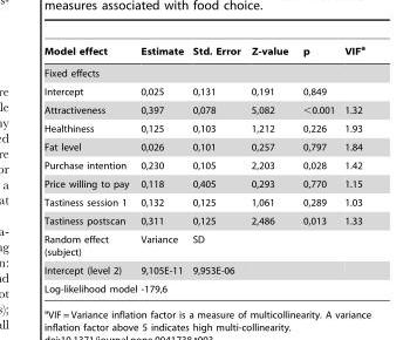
<table><thead><tr><td>Model effect</td><td>Estimate</td><td>Std. Error</td><td>Z-value</td><td>p</td><td>VIF<sup>a</sup></td></tr></thead><tbody><tr><td colspan="6">Fixed effects</td></tr><tr><td>Intercept</td><td>0,025</td><td>0,131</td><td>0,191</td><td>0,849</td><td></td></tr><tr><td>Attractiveness</td><td>0,397</td><td>0,078</td><td>5,082</td><td>&lt;0.001</td><td>1.32</td></tr><tr><td>Healthiness</td><td>0,125</td><td>0,103</td><td>1,212</td><td>0,226</td><td>1.93</td></tr><tr><td>Fat level</td><td>0,026</td><td>0,101</td><td>0,257</td><td>0,797</td><td>1.84</td></tr><tr><td>Purchase intention</td><td>0,230</td><td>0,105</td><td>2,203</td><td>0,028</td><td>1.42</td></tr><tr><td>Price willing to pay</td><td>0,118</td><td>0,405</td><td>0,293</td><td>0,770</td><td>1.15</td></tr><tr><td>Tastiness session 1</td><td>0,132</td><td>0,125</td><td>1,061</td><td>0,289</td><td>1.03</td></tr><tr><td>Tastiness postscan</td><td>0,311</td><td>0,125</td><td>2,486</td><td>0,013</td><td>1.33</td></tr><tr><td>Random effect (subject)</td><td>Variance</td><td>SD</td><td></td><td></td><td></td></tr><tr><td>Intercept (level 2)</td><td>9,105E-11</td><td>9,953E-06</td><td></td><td></td><td></td></tr><tr><td>Log-likelihood model</td><td>-179,6</td><td></td><td></td><td></td><td></td></tr></tbody></table>